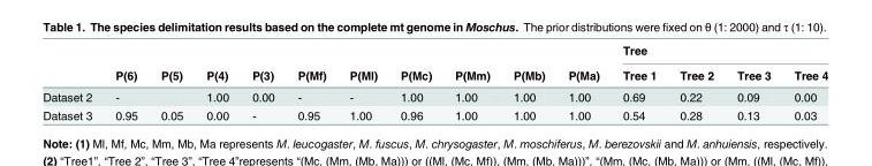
<table><thead><tr><td rowspan="2"></td><td rowspan="2">P(6)</td><td rowspan="2">P(5)</td><td rowspan="2">P(4)</td><td rowspan="2">P(3)</td><td rowspan="2">P(Mf)</td><td rowspan="2">P(Ml)</td><td rowspan="2">P(Mc)</td><td rowspan="2">P(Mm)</td><td rowspan="2">P(Mb)</td><td rowspan="2">P(Ma)</td><td colspan="4">Tree</td></tr><tr><td>Tree 1</td><td>Tree 2</td><td>Tree 3</td><td>Tree 4</td></tr></thead><tbody><tr><td>Dataset 2</td><td>-</td><td></td><td>1.00</td><td>0.00</td><td>-</td><td>-</td><td>1.00</td><td>1.00</td><td>1.00</td><td>1.00</td><td>0.69</td><td>0.22</td><td>0.09</td><td>0.00</td></tr><tr><td>Dataset 3</td><td>0.95</td><td>0.05</td><td>0.00</td><td>-</td><td>0.95</td><td>1.00</td><td>0.96</td><td>1.00</td><td>1.00</td><td>1.00</td><td>0.54</td><td>0.28</td><td>0.13</td><td>0.03</td></tr></tbody></table>